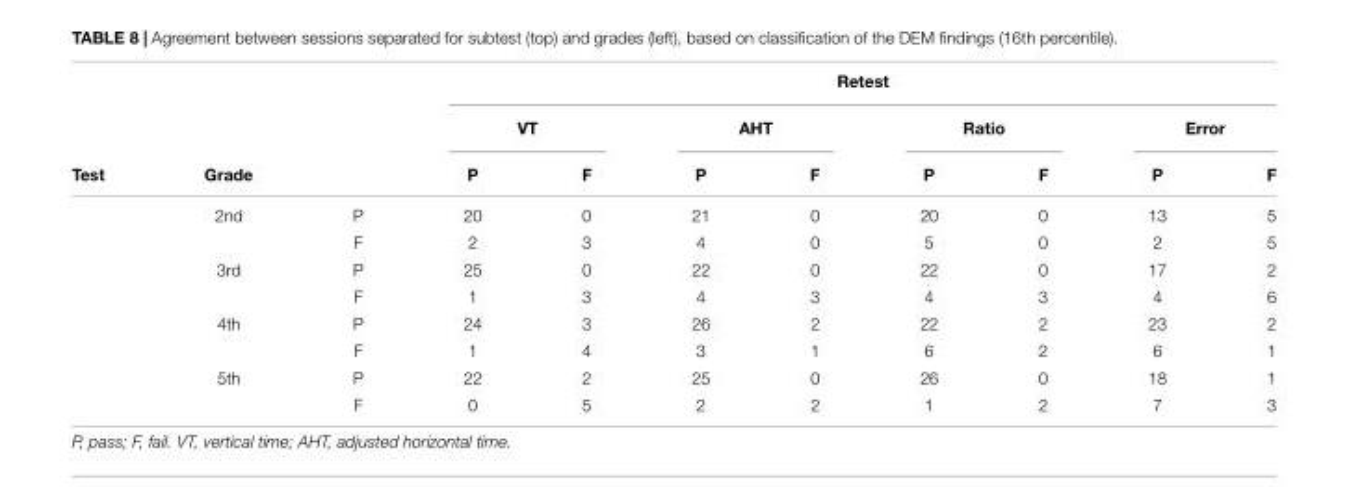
<table><thead><tr><td rowspan="3">Test</td><td rowspan="3">Grade</td><td rowspan="3"></td><td colspan="8">Retest</td></tr><tr><td colspan="2">VT</td><td colspan="2">AHT</td><td colspan="2">Ratio</td><td colspan="2">Error</td></tr><tr><td>P</td><td>F</td><td>P</td><td>F</td><td>P</td><td>F</td><td>P</td><td>F</td></tr></thead><tbody><tr><td></td><td>2nd</td><td>P</td><td>20</td><td>0</td><td>21</td><td>0</td><td>20</td><td>0</td><td>13</td><td>5</td></tr><tr><td></td><td></td><td>F</td><td>2</td><td>3</td><td>4</td><td>0</td><td>5</td><td>0</td><td>2</td><td>5</td></tr><tr><td></td><td>3rd</td><td>P</td><td>25</td><td>0</td><td>22</td><td>0</td><td>22</td><td>0</td><td>17</td><td>2</td></tr><tr><td></td><td></td><td>F</td><td>1</td><td>3</td><td>4</td><td>3</td><td>4</td><td>3</td><td>4</td><td>6</td></tr><tr><td></td><td>4th</td><td>P</td><td>24</td><td>3</td><td>26</td><td>2</td><td>22</td><td>2</td><td>23</td><td>2</td></tr><tr><td></td><td></td><td>F</td><td>1</td><td>4</td><td>3</td><td>1</td><td>6</td><td>2</td><td>6</td><td>1</td></tr><tr><td></td><td>5th</td><td>P</td><td>22</td><td>2</td><td>25</td><td>0</td><td>26</td><td>0</td><td>18</td><td>1</td></tr><tr><td></td><td></td><td>F</td><td>0</td><td>5</td><td>2</td><td>2</td><td>1</td><td>2</td><td>7</td><td>3</td></tr></tbody></table>